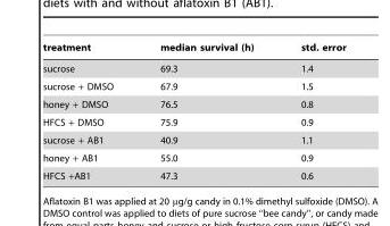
<table><thead><tr><td>treatment</td><td>median survival (h)</td><td>std. error</td></tr></thead><tbody><tr><td>sucrose</td><td>69.3</td><td>1.4</td></tr><tr><td>sucrose + DMSO</td><td>67.9</td><td>1.5</td></tr><tr><td>honey + DMSO</td><td>76.5</td><td>0.8</td></tr><tr><td>HFCS + DMSO</td><td>75.9</td><td>0.9</td></tr><tr><td>sucrose + AB1</td><td>40.9</td><td>1.1</td></tr><tr><td>honey + AB1</td><td>55.0</td><td>0.9</td></tr><tr><td>HFCS +AB1</td><td>47.3</td><td>0.6</td></tr></tbody></table>